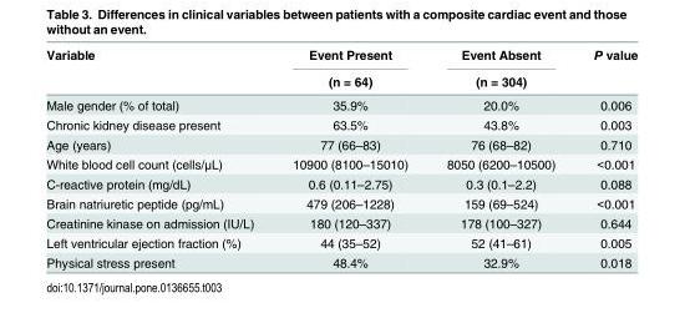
<table><thead><tr><td rowspan="2">Variable</td><td rowspan="2">Event Present (n = 64)</td><td rowspan="2">Event Absent (n = 304)</td><td rowspan="2">P value</td></tr><tr></tr></thead><tbody><tr><td>Male gender (% of total)</td><td>35.9%</td><td>20.0%</td><td>0.006</td></tr><tr><td>Chronic kidney disease present</td><td>63.5%</td><td>43.8%</td><td>0.003</td></tr><tr><td>Age (years)</td><td>77 (66–83)</td><td>76 (68–82)</td><td>0.710</td></tr><tr><td>White blood cell count (cells/μL)</td><td>10900 (8100–15010)</td><td>8050 (6200–10500)</td><td>&lt;0.001</td></tr><tr><td>C-reactive protein (mg/dL)</td><td>0.6 (0.11–2.75)</td><td>0.3 (0.1–2.2)</td><td>0.088</td></tr><tr><td>Brain natriuretic peptide (pg/mL)</td><td>479 (206–1228)</td><td>159 (69–524)</td><td>&lt;0.001</td></tr><tr><td>Creatinine kinase on admission (IU/L)</td><td>180 (120–337)</td><td>178 (100–327)</td><td>0.644</td></tr><tr><td>Left ventricular ejection fraction (%)</td><td>44 (35–52)</td><td>52 (41–61)</td><td>0.005</td></tr><tr><td>Physical stress present</td><td>48.4%</td><td>32.9%</td><td>0.018</td></tr></tbody></table>